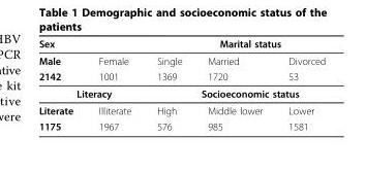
<table><thead><tr><td colspan="2">Sex</td><td colspan="3">Marital status</td></tr><tr><td>Male</td><td>Female</td><td>Single</td><td>Married</td><td>Divorced</td></tr></thead><tbody><tr><td>2142</td><td>1001</td><td>1369</td><td>1720</td><td>53</td></tr><tr><td colspan="2">Literacy</td><td colspan="3">Socioeconomic status</td></tr><tr><td>Literate</td><td>Illiterate</td><td>High</td><td>Middle lower</td><td>Lower</td></tr><tr><td>1175</td><td>1967</td><td>576</td><td>985</td><td>1581</td></tr></tbody></table>